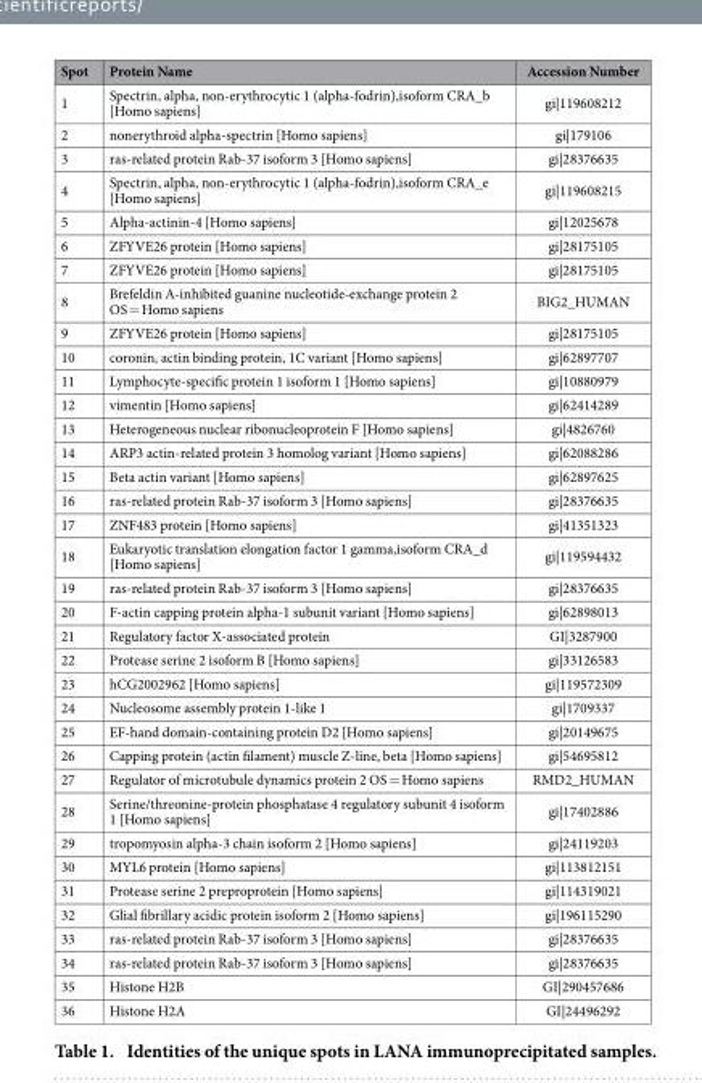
<table><thead><tr><td>Spot</td><td>Protein Name</td><td>Accession Number</td></tr></thead><tbody><tr><td>1</td><td>Spectrin, alpha, non-erythrocytic 1 (alpha-fodrin),isoform CRA_b [Homo sapiens]</td><td>gi|119608212</td></tr><tr><td>2</td><td>nonerythroid alpha-spectrin [Homo sapiens]</td><td>gi|179106</td></tr><tr><td>3</td><td>ras-related protein Rab-37 isoform 3 [Homo sapiens]</td><td>gi|28376635</td></tr><tr><td>4</td><td>Spectrin, alpha, non-erythrocytic 1 (alpha-fodrin),isoform CRA_e [Homo sapiens]</td><td>gi|119608215</td></tr><tr><td>5</td><td>Alpha-actinin-4 [Homo sapiens]</td><td>gi|12025678</td></tr><tr><td>6</td><td>ZFYVE26 protein [Homo sapiens]</td><td>gi|28175105</td></tr><tr><td>7</td><td>ZFYVE26 protein [Homo sapiens]</td><td>gi|28175105</td></tr><tr><td>8</td><td>Brefeldin A-inhibited guanine nucleotide-exchange protein 2 OS = Homo sapiens</td><td>BIG2_HUMAN</td></tr><tr><td>9</td><td>ZFYVE26 protein [Homo sapiens]</td><td>gi|28175105</td></tr><tr><td>10</td><td>coronin, actin binding protein, 1C variant [Homo sapiens]</td><td>gi|62897707</td></tr><tr><td>11</td><td>Lymphocyte-specific protein 1 isoform 1 [Homo sapiens]</td><td>gi|10880979</td></tr><tr><td>12</td><td>vimentin [Homo sapiens]</td><td>gi|62414289</td></tr><tr><td>13</td><td>Heterogeneous nuclear ribonucleoprotein F [Homo sapiens]</td><td>gi|4826760</td></tr><tr><td>14</td><td>ARP3 actin-related protein 3 homolog variant [Homo sapiens]</td><td>gi|62088286</td></tr><tr><td>15</td><td>Beta actin variant [Homo sapiens]</td><td>gi|62897625</td></tr><tr><td>16</td><td>ras-related protein Rab-37 isoform 3 [Homo sapiens]</td><td>gi|28376635</td></tr><tr><td>17</td><td>ZNF483 protein [Homo sapiens]</td><td>gi|41351323</td></tr><tr><td>18</td><td>Eukaryotic translation elongation factor 1 gamma,isoform CRA_d [Homo sapiens]</td><td>gi|119594432</td></tr><tr><td>19</td><td>ras-related protein Rab-37 isoform 3 [Homo sapiens]</td><td>gi|28376635</td></tr><tr><td>20</td><td>F-actin capping protein alpha-1 subunit variant [Homo sapiens]</td><td>gi|62898013</td></tr><tr><td>21</td><td>Regulatory factor X-associated protein</td><td>GI|3287900</td></tr><tr><td>22</td><td>Protease serine 2 isoform B [Homo sapiens]</td><td>gi|33126583</td></tr><tr><td>23</td><td>hCG2002962 [Homo sapiens]</td><td>gi|119572309</td></tr><tr><td>24</td><td>Nucleosome assembly protein 1-like 1</td><td>gi|1709337</td></tr><tr><td>25</td><td>EF-hand domain-containing protein D2 [Homo sapiens]</td><td>gi|20149675</td></tr><tr><td>26</td><td>Capping protein (actin filament) muscle Z-line, beta [Homo sapiens]</td><td>gi|54695812</td></tr><tr><td>27</td><td>Regulator of microtubule dynamics protein 2 OS = Homo sapiens</td><td>RMD2_HUMAN</td></tr><tr><td>28</td><td>Serine/threonine-protein phosphatase 4 regulatory subunit 4 isoform 1 [Homo sapiens]</td><td>gi|17402886</td></tr><tr><td>29</td><td>tropomyosin alpha-3 chain isoform 2 [Homo sapiens]</td><td>gi|24119203</td></tr><tr><td>30</td><td>MYL6 protein [Homo sapiens]</td><td>gi|113812151</td></tr><tr><td>31</td><td>Protease serine 2 preproprotein [Homo sapiens]</td><td>gi|114319021</td></tr><tr><td>32</td><td>Glial fibrillary acidic protein isoform 2 [Homo sapiens]</td><td>gi|196115290</td></tr><tr><td>33</td><td>ras-related protein Rab-37 isoform 3 [Homo sapiens]</td><td>gi|28376635</td></tr><tr><td>34</td><td>ras-related protein Rab-37 isoform 3 [Homo sapiens]</td><td>gi|28376635</td></tr><tr><td>35</td><td>Histone H2B</td><td>GI|290457686</td></tr><tr><td>36</td><td>Histone H2A</td><td>GI|24496292</td></tr></tbody></table>